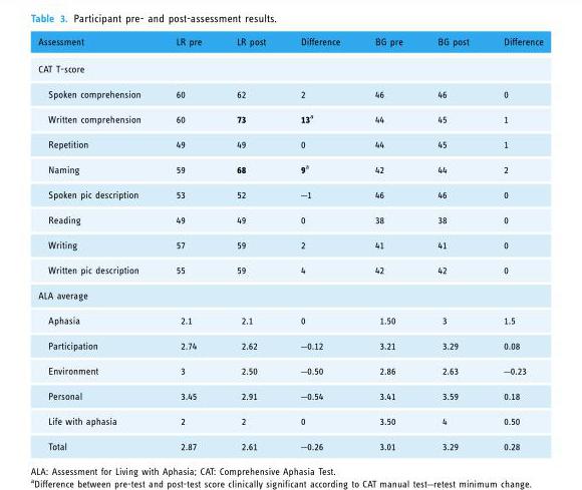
<table><thead><tr><td>Assessment</td><td>LR pre</td><td>LR post</td><td>Difference</td><td>BG pre</td><td>BG post</td><td>Difference</td></tr></thead><tbody><tr><td colspan="7">CAT T-score</td></tr><tr><td>Spoken comprehension</td><td>60</td><td>62</td><td>2</td><td>46</td><td>46</td><td>0</td></tr><tr><td>Written comprehension</td><td>60</td><td>73</td><td>13<sup>a</sup></td><td>44</td><td>45</td><td>1</td></tr><tr><td>Repetition</td><td>49</td><td>49</td><td>0</td><td>44</td><td>45</td><td>1</td></tr><tr><td>Naming</td><td>59</td><td>68</td><td>9<sup>a</sup></td><td>42</td><td>44</td><td>2</td></tr><tr><td>Spoken pic description</td><td>53</td><td>52</td><td>–1</td><td>46</td><td>46</td><td>0</td></tr><tr><td>Reading</td><td>49</td><td>49</td><td>0</td><td>38</td><td>38</td><td>0</td></tr><tr><td>Writing</td><td>57</td><td>59</td><td>2</td><td>41</td><td>41</td><td>0</td></tr><tr><td>Written pic description</td><td>55</td><td>59</td><td>4</td><td>42</td><td>42</td><td>0</td></tr><tr><td colspan="7">ALA average</td></tr><tr><td>Aphasia</td><td>2.1</td><td>2.1</td><td>0</td><td>1.50</td><td>3</td><td>1.5</td></tr><tr><td>Participation</td><td>2.74</td><td>2.62</td><td>–0.12</td><td>3.21</td><td>3.29</td><td>0.08</td></tr><tr><td>Environment</td><td>3</td><td>2.50</td><td>–0.50</td><td>2.86</td><td>2.63</td><td>–0.23</td></tr><tr><td>Personal</td><td>3.45</td><td>2.91</td><td>–0.54</td><td>3.41</td><td>3.59</td><td>0.18</td></tr><tr><td>Life with aphasia</td><td>2</td><td>2</td><td>0</td><td>3.50</td><td>4</td><td>0.50</td></tr><tr><td>Total</td><td>2.87</td><td>2.61</td><td>–0.26</td><td>3.01</td><td>3.29</td><td>0.28</td></tr></tbody></table>